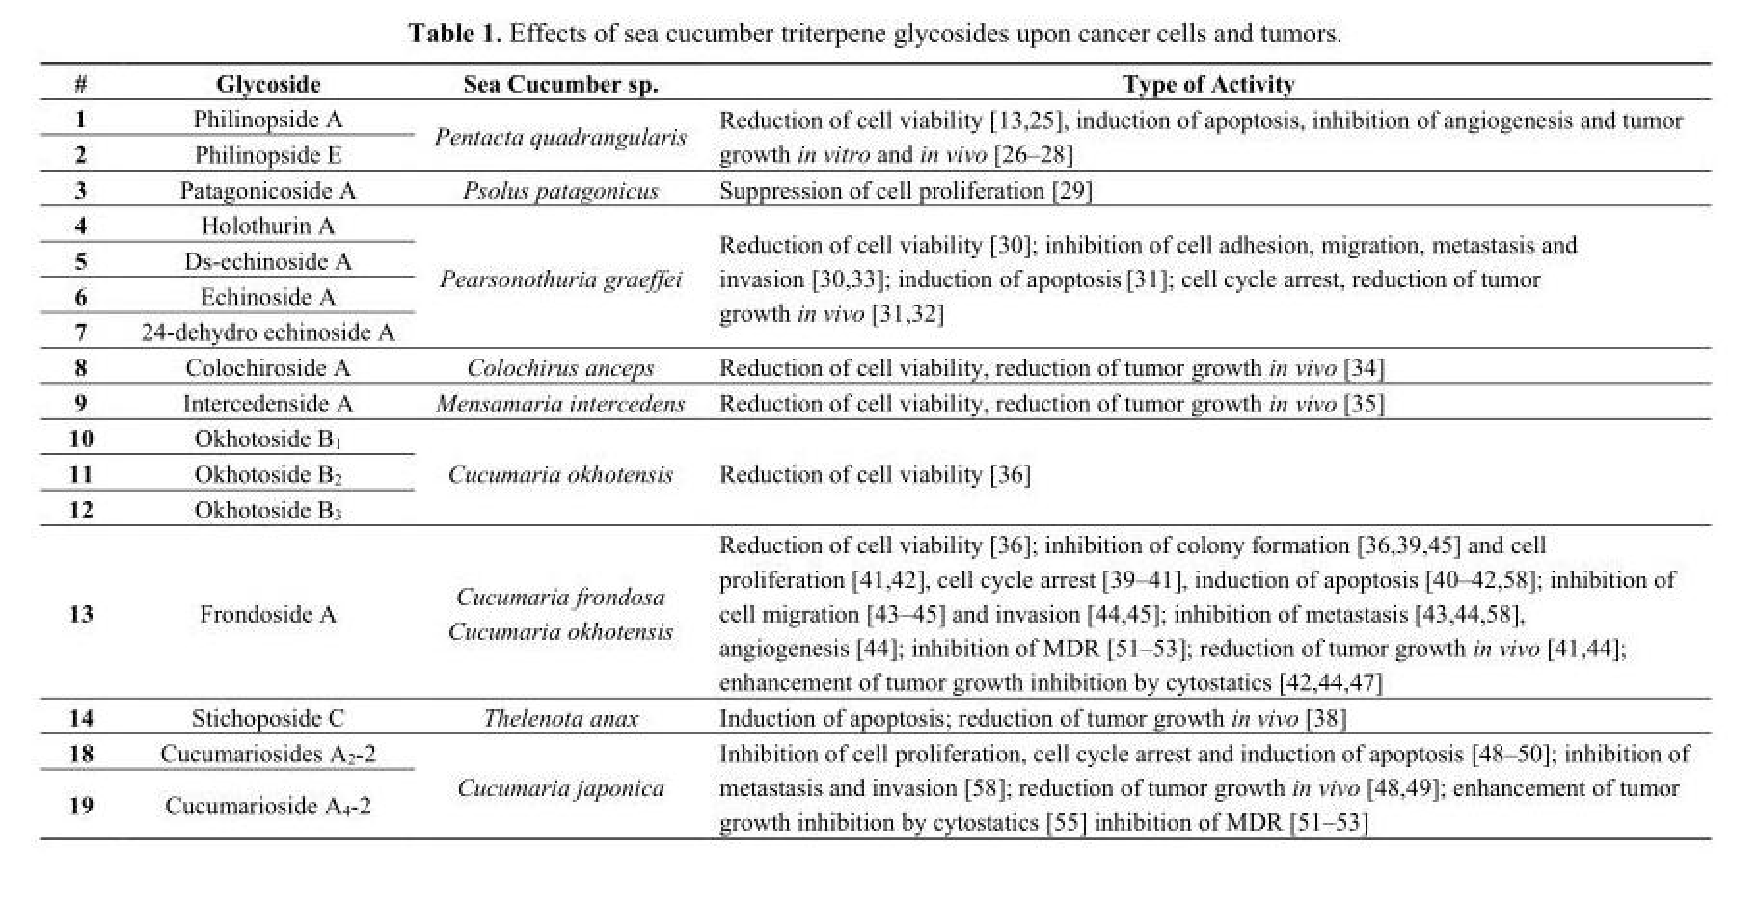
<table><thead><tr><td>#</td><td>Glycoside</td><td>Sea Cucumber sp.</td><td>Type of Activity</td></tr></thead><tbody><tr><td>1</td><td>Philinopside A</td><td rowspan="2">Pentacta quadrangularis</td><td rowspan="2">Reduction of cell viability [13,25], induction of apoptosis, inhibition of angiogenesis and tumor growth in vitro and in vivo [26–28]</td></tr><tr><td>2</td><td>Philinopside E</td></tr><tr><td>3</td><td>Patagonicoside A</td><td>Psolus patagonicus</td><td>Suppression of cell proliferation [29]</td></tr><tr><td>4</td><td>Holothurin A</td><td rowspan="4">Pearsonothuria graeffei</td><td rowspan="4">Reduction of cell viability [30]; inhibition of cell adhesion, migration, metastasis and invasion [30,33]; induction of apoptosis [31]; cell cycle arrest, reduction of tumor growth in vivo [31,32]</td></tr><tr><td>5</td><td>Ds-echinoside A</td></tr><tr><td>6</td><td>Echinoside A</td></tr><tr><td>7</td><td>24-dehydro echinoside A</td></tr><tr><td>8</td><td>Colochiroside A</td><td>Colochirus anceps</td><td>Reduction of cell viability, reduction of tumor growth in vivo [34]</td></tr><tr><td>9</td><td>Intercedenside A</td><td>Mensamaria intercedens</td><td>Reduction of cell viability, reduction of tumor growth in vivo [35]</td></tr><tr><td>10</td><td>Okhotoside B<sub>1</sub></td><td rowspan="3">Cucumaria okhotensis</td><td rowspan="3">Reduction of cell viability [36]</td></tr><tr><td>11</td><td>Okhotoside B<sub>2</sub></td></tr><tr><td>12</td><td>Okhotoside B<sub>3</sub></td></tr><tr><td>13</td><td>Frondoside A</td><td>Cucumaria frondosa Cucumaria okhotensis</td><td>Reduction of cell viability [36]; inhibition of colony formation [36,39,45] and cell proliferation [41,42], cell cycle arrest [39–41], induction of apoptosis [40–42,58]; inhibition of cell migration [43–45] and invasion [44,45]; inhibition of metastasis [43,44,58], angiogenesis [44]; inhibition of MDR [51–53]; reduction of tumor growth in vivo [41,44]; enhancement of tumor growth inhibition by cytostatics [42,44,47]</td></tr><tr><td>14</td><td>Stichoposide C</td><td>Thelenota anax</td><td>Induction of apoptosis; reduction of tumor growth in vivo [38]</td></tr><tr><td>18</td><td>Cucumariosides A<sub>2</sub>-2</td><td rowspan="2">Cucumaria japonica</td><td rowspan="2">Inhibition of cell proliferation, cell cycle arrest and induction of apoptosis [48–50]; inhibition of metastasis and invasion [58]; reduction of tumor growth in vivo [48,49]; enhancement of tumor growth inhibition by cytostatics [55] inhibition of MDR [51–53]</td></tr><tr><td>19</td><td>Cucumarioside A<sub>4</sub>-2</td></tr></tbody></table>